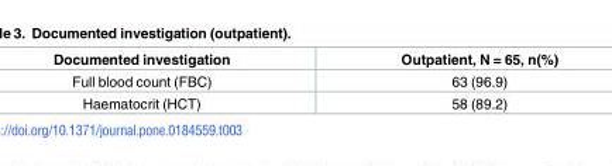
<table><thead><tr><td>Documented investigation</td><td>Outpatient, N = 65, n(%)</td></tr></thead><tbody><tr><td>Full blood count (FBC)</td><td>63 (96.9)</td></tr><tr><td>Haematocrit (HCT)</td><td>58 (89.2)</td></tr></tbody></table>